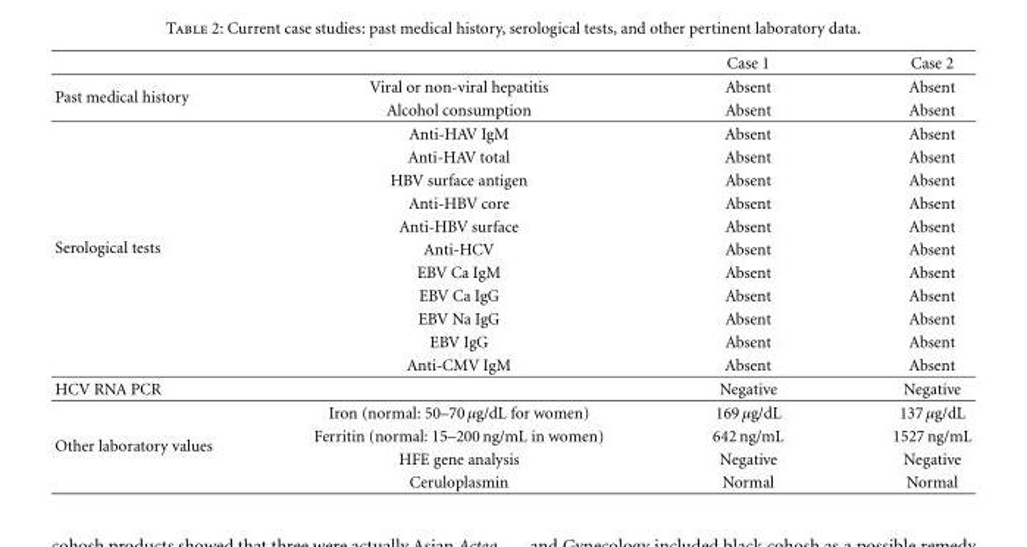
<table><thead><tr><td></td><td></td><td>Case 1</td><td>Case 2</td></tr></thead><tbody><tr><td rowspan="2">Past medical history</td><td>Viral or non-viral hepatitis</td><td>Absent</td><td>Absent</td></tr><tr><td>Alcohol consumption</td><td>Absent</td><td>Absent</td></tr><tr><td rowspan="11">Serological tests</td><td>Anti-HAV IgM</td><td>Absent</td><td>Absent</td></tr><tr><td>Anti-HAV total</td><td>Absent</td><td>Absent</td></tr><tr><td>HBV surface antigen</td><td>Absent</td><td>Absent</td></tr><tr><td>Anti-HBV core</td><td>Absent</td><td>Absent</td></tr><tr><td>Anti-HBV surface</td><td>Absent</td><td>Absent</td></tr><tr><td>Anti-HCV</td><td>Absent</td><td>Absent</td></tr><tr><td>EBV Ca IgM</td><td>Absent</td><td>Absent</td></tr><tr><td>EBV Ca IgG</td><td>Absent</td><td>Absent</td></tr><tr><td>EBV Na IgG</td><td>Absent</td><td>Absent</td></tr><tr><td>EBV IgG</td><td>Absent</td><td>Absent</td></tr><tr><td>Anti-CMV IgM</td><td>Absent</td><td>Absent</td></tr><tr><td>HCV RNA PCR</td><td></td><td>Negative</td><td>Negative</td></tr><tr><td rowspan="4">Other laboratory values</td><td>Iron (normal: 50–70 µg/dL for women)</td><td>169 µg/dL</td><td>137 µg/dL</td></tr><tr><td>Ferritin (normal: 15–200 ng/mL in women)</td><td>642 ng/mL</td><td>1527 ng/mL</td></tr><tr><td>HFE gene analysis</td><td>Negative</td><td>Negative</td></tr><tr><td>Ceruloplasmin</td><td>Normal</td><td>Normal</td></tr></tbody></table>